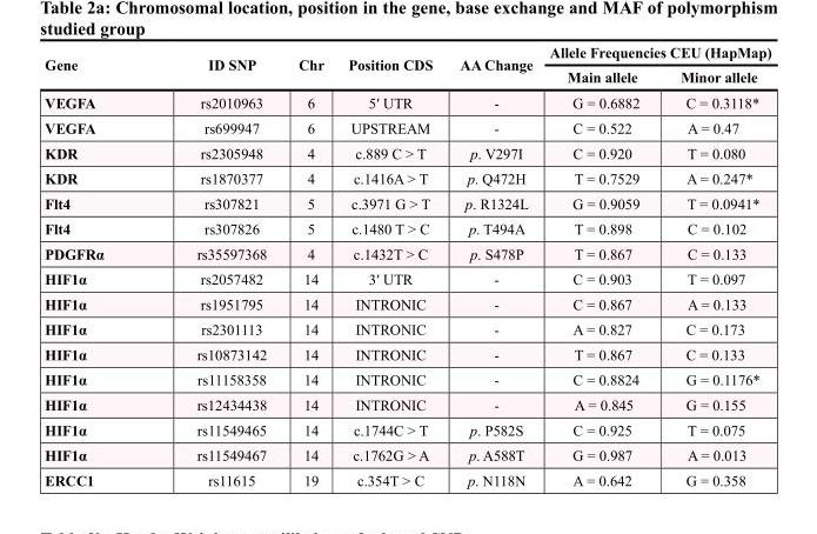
<table><thead><tr><td rowspan="2">Gene</td><td rowspan="2">ID SNP</td><td rowspan="2">Chr</td><td rowspan="2">Position CDS</td><td rowspan="2">AA Change</td><td colspan="2">Allele Frequencies CEU (HapMap)</td></tr><tr><td>Main allele</td><td>Minor allele</td></tr></thead><tbody><tr><td>VEGFA</td><td>rs2010963</td><td>6</td><td>5′ UTR</td><td>-</td><td>G = 0.6882</td><td>C = 0.3118*</td></tr><tr><td>VEGFA</td><td>rs699947</td><td>6</td><td>UPSTREAM</td><td>-</td><td>C = 0.522</td><td>A = 0.47</td></tr><tr><td>KDR</td><td>rs2305948</td><td>4</td><td>c.889 C &gt; T</td><td>p. V297I</td><td>C = 0.920</td><td>T = 0.080</td></tr><tr><td>KDR</td><td>rs1870377</td><td>4</td><td>c.1416A &gt; T</td><td>p. Q472H</td><td>T = 0.7529</td><td>A = 0.247*</td></tr><tr><td>Flt4</td><td>rs307821</td><td>5</td><td>c.3971 G &gt; T</td><td>p. R1324L</td><td>G = 0.9059</td><td>T = 0.0941*</td></tr><tr><td>Flt4</td><td>rs307826</td><td>5</td><td>c.1480 T &gt; C</td><td>p. T494A</td><td>T = 0.898</td><td>C = 0.102</td></tr><tr><td>PDGFRα</td><td>rs35597368</td><td>4</td><td>c.1432T &gt; C</td><td>p. S478P</td><td>T = 0.867</td><td>C = 0.133</td></tr><tr><td>HIF1α</td><td>rs2057482</td><td>14</td><td>3′ UTR</td><td>-</td><td>C = 0.903</td><td>T = 0.097</td></tr><tr><td>HIF1α</td><td>rs1951795</td><td>14</td><td>INTRONIC</td><td>-</td><td>C = 0.867</td><td>A = 0.133</td></tr><tr><td>HIF1α</td><td>rs2301113</td><td>14</td><td>INTRONIC</td><td>-</td><td>A = 0.827</td><td>C = 0.173</td></tr><tr><td>HIF1α</td><td>rs10873142</td><td>14</td><td>INTRONIC</td><td>-</td><td>T = 0.867</td><td>C = 0.133</td></tr><tr><td>HIF1α</td><td>rs11158358</td><td>14</td><td>INTRONIC</td><td>-</td><td>C = 0.8824</td><td>G = 0.1176*</td></tr><tr><td>HIF1α</td><td>rs12434438</td><td>14</td><td>INTRONIC</td><td>-</td><td>A = 0.845</td><td>G = 0.155</td></tr><tr><td>HIF1α</td><td>rs11549465</td><td>14</td><td>c.1744C &gt; T</td><td>p. P582S</td><td>C = 0.925</td><td>T = 0.075</td></tr><tr><td>HIF1α</td><td>rs11549467</td><td>14</td><td>c.1762G &gt; A</td><td>p. A588T</td><td>G = 0.987</td><td>A = 0.013</td></tr><tr><td>ERCC1</td><td>rs11615</td><td>19</td><td>c.354T &gt; C</td><td>p. N118N</td><td>A = 0.642</td><td>G = 0.358</td></tr></tbody></table>